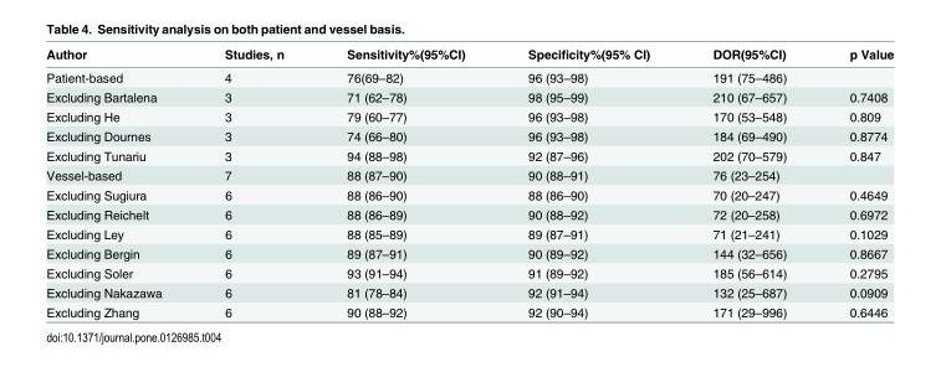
<table><thead><tr><td>Author</td><td>Studies, n</td><td>Sensitivity%(95%CI)</td><td>Specificity%(95% CI)</td><td>DOR(95%CI)</td><td>p Value</td></tr></thead><tbody><tr><td>Patient-based</td><td>4</td><td>76(69–82)</td><td>96 (93–98)</td><td>191 (75–486)</td><td></td></tr><tr><td>Excluding Bartalena</td><td>3</td><td>71 (62–78)</td><td>98 (95–99)</td><td>210 (67–657)</td><td>0.7408</td></tr><tr><td>Excluding He</td><td>3</td><td>79 (60–77)</td><td>96 (93–98)</td><td>170 (53–548)</td><td>0.809</td></tr><tr><td>Excluding Dournes</td><td>3</td><td>74 (66–80)</td><td>96 (93–98)</td><td>184 (69–490)</td><td>0.8774</td></tr><tr><td>Excluding Tunariu</td><td>3</td><td>94 (88–98)</td><td>92 (87–96)</td><td>202 (70–579)</td><td>0.847</td></tr><tr><td>Vessel-based</td><td>7</td><td>88 (87–90)</td><td>90 (88–91)</td><td>76 (23–254)</td><td></td></tr><tr><td>Excluding Sugiura</td><td>6</td><td>88 (86–90)</td><td>88 (86–90)</td><td>70 (20–247)</td><td>0.4649</td></tr><tr><td>Excluding Reichelt</td><td>6</td><td>88 (86–89)</td><td>90 (88–92)</td><td>72 (20–258)</td><td>0.6972</td></tr><tr><td>Excluding Ley</td><td>6</td><td>88 (85–89)</td><td>89 (87–91)</td><td>71 (21–241)</td><td>0.1029</td></tr><tr><td>Excluding Bergin</td><td>6</td><td>89 (87–91)</td><td>90 (89–92)</td><td>144 (32–656)</td><td>0.8667</td></tr><tr><td>Excluding Soler</td><td>6</td><td>93 (91–94)</td><td>91 (89–92)</td><td>185 (56–614)</td><td>0.2795</td></tr><tr><td>Excluding Nakazawa</td><td>6</td><td>81 (78–84)</td><td>92 (91–94)</td><td>132 (25–687)</td><td>0.0909</td></tr><tr><td>Excluding Zhang</td><td>6</td><td>90 (88–92)</td><td>92 (90–94)</td><td>171 (29–996)</td><td>0.6446</td></tr></tbody></table>